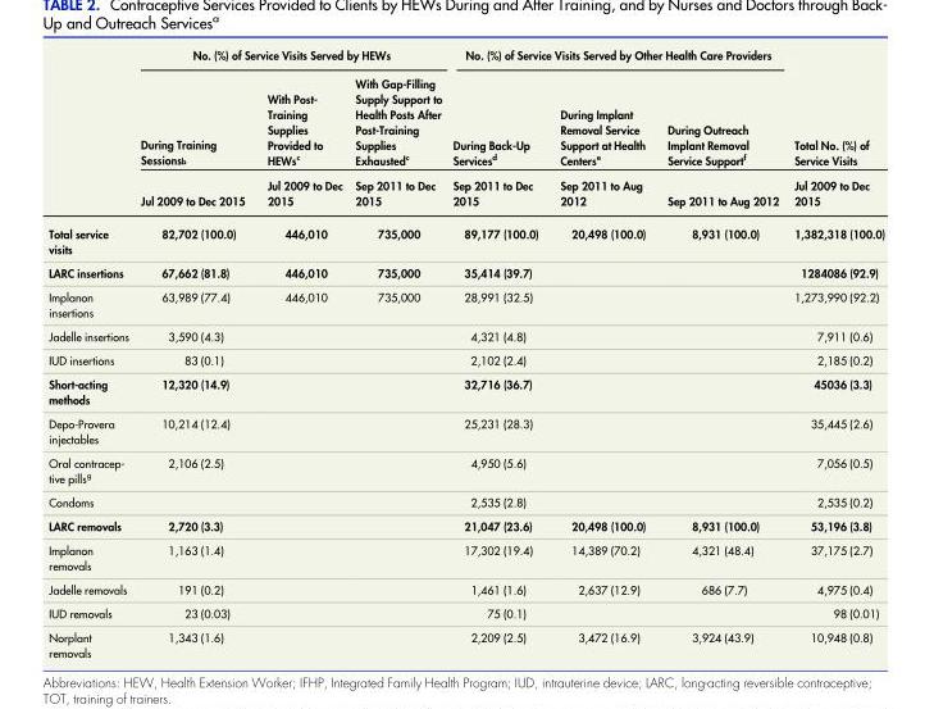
<table><thead><tr><td rowspan="3"></td><td colspan="3">No. (%) of Service Visits Served by HEWs</td><td colspan="3">No. (%) of Service Visits Served by Other Health Care Providers</td><td rowspan="3">Total No. (%) of Service Visits Jul 2009 to Dec 2015</td></tr><tr><td rowspan="2">During Training Sessions<sup>b</sup> Jul 2009 to Dec 2015</td><td rowspan="2">With Post- Training Supplies Provided to HEWs<sup>c</sup> Jul 2009 to Dec 2015</td><td rowspan="2">With Gap-Filling Supply Support to Health Posts After Post-Training Supplies Exhausted<sup>c</sup> Sep 2011 to Dec 2015</td><td rowspan="2">During Back-Up Services<sup>d</sup> Sep 2011 to Dec 2015</td><td rowspan="2">During Implant Removal Service Support at Health Centers<sup>e</sup> Sep 2011 to Aug 2012</td><td rowspan="2">During Outreach Implant Removal Service Support<sup>f</sup> Sep 2011 to Aug 2012</td></tr><tr></tr></thead><tbody><tr><td>Total service visits</td><td>82,702 (100.0)</td><td>446,010</td><td>735,000</td><td>89,177 (100.0)</td><td>20,498 (100.0)</td><td>8,931 (100.0)</td><td>1,382,318 (100.0)</td></tr><tr><td>LARC insertions</td><td>67,662 (81.8)</td><td>446,010</td><td>735,000</td><td>35,414 (39.7)</td><td></td><td></td><td>1284086 (92.9)</td></tr><tr><td>Implanon insertions</td><td>63,989 (77.4)</td><td>446,010</td><td>735,000</td><td>28,991 (32.5)</td><td></td><td></td><td>1,273,990 (92.2)</td></tr><tr><td>Jadelle insertions</td><td>3,590 (4.3)</td><td></td><td></td><td>4,321 (4.8)</td><td></td><td></td><td>7,911 (0.6)</td></tr><tr><td>IUD insertions</td><td>83 (0.1)</td><td></td><td></td><td>2,102 (2.4)</td><td></td><td></td><td>2,185 (0.2)</td></tr><tr><td>Short-acting methods</td><td>12,320 (14.9)</td><td></td><td></td><td>32,716 (36.7)</td><td></td><td></td><td>45036 (3.3)</td></tr><tr><td>Depo-Provera injectables</td><td>10,214 (12.4)</td><td></td><td></td><td>25,231 (28.3)</td><td></td><td></td><td>35,445 (2.6)</td></tr><tr><td>Oral contracep- tive pillsg</td><td>2,106 (2.5)</td><td></td><td></td><td>4,950 (5.6)</td><td></td><td></td><td>7,056 (0.5)</td></tr><tr><td>Condoms</td><td></td><td></td><td></td><td>2,535 (2.8)</td><td></td><td></td><td>2,535 (0.2)</td></tr><tr><td>LARC removals</td><td>2,720 (3.3)</td><td></td><td></td><td>21,047 (23.6)</td><td>20,498 (100.0)</td><td>8,931 (100.0)</td><td>53,196 (3.8)</td></tr><tr><td>Implanon removals</td><td>1,163 (1.4)</td><td></td><td></td><td>17,302 (19.4)</td><td>14,389 (70.2)</td><td>4,321 (48.4)</td><td>37,175 (2.7)</td></tr><tr><td>Jadelle removals</td><td>191 (0.2)</td><td></td><td></td><td>1,461 (1.6)</td><td>2,637 (12.9)</td><td>686 (7.7)</td><td>4,975 (0.4)</td></tr><tr><td>IUD removals</td><td>23 (0.03)</td><td></td><td></td><td>75 (0.1)</td><td></td><td></td><td>98 (0.01)</td></tr><tr><td>Norplant removals</td><td>1,343 (1.6)</td><td></td><td></td><td>2,209 (2.5)</td><td>3,472 (16.9)</td><td>3,924 (43.9)</td><td>10,948 (0.8)</td></tr></tbody></table>